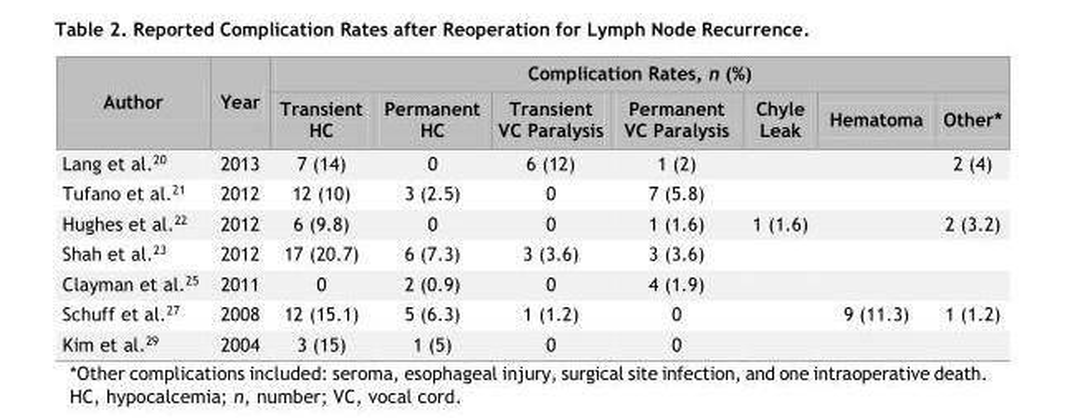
<table><thead><tr><td rowspan="2">Author</td><td rowspan="2">Year</td><td colspan="7">Complication Rates, n (%)</td></tr><tr><td>Transient HC</td><td>Permanent HC</td><td>Transient VC Paralysis</td><td>Permanent VC Paralysis</td><td>Chyle Leak</td><td>Hematoma</td><td>Other*</td></tr></thead><tbody><tr><td>Lang et al.<sup>20</sup></td><td>2013</td><td>7 (14)</td><td>0</td><td>6 (12)</td><td>1 (2)</td><td></td><td></td><td>2 (4)</td></tr><tr><td>Tufano et al.<sup>21</sup></td><td>2012</td><td>12 (10)</td><td>3 (2.5)</td><td>0</td><td>7 (5.8)</td><td></td><td></td><td></td></tr><tr><td>Hughes et al.<sup>22</sup></td><td>2012</td><td>6 (9.8)</td><td>0</td><td>0</td><td>1 (1.6)</td><td>1 (1.6)</td><td></td><td>2 (3.2)</td></tr><tr><td>Shah et al.<sup>23</sup></td><td>2012</td><td>17 (20.7)</td><td>6 (7.3)</td><td>3 (3.6)</td><td>3 (3.6)</td><td></td><td></td><td></td></tr><tr><td>Clayman et al.<sup>25</sup></td><td>2011</td><td>0</td><td>2 (0.9)</td><td>0</td><td>4 (1.9)</td><td></td><td></td><td></td></tr><tr><td>Schuff et al.<sup>27</sup></td><td>2008</td><td>12 (15.1)</td><td>5 (6.3)</td><td>1 (1.2)</td><td>0</td><td></td><td>9 (11.3)</td><td>1 (1.2)</td></tr><tr><td>Kim et al.<sup>29</sup></td><td>2004</td><td>3 (15)</td><td>1 (5)</td><td>0</td><td>0</td><td></td><td></td><td></td></tr></tbody></table>